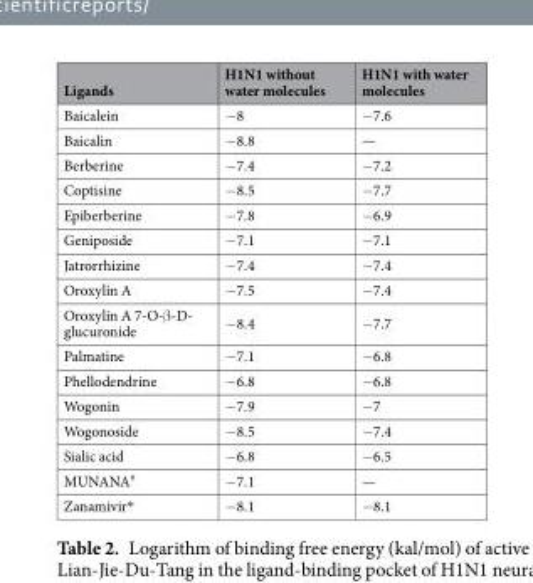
<table><thead><tr><td>Ligands</td><td>H1N1 without water molecules</td><td>H1N1 with water molecules</td></tr></thead><tbody><tr><td>Baicalein</td><td>−8</td><td>−7.6</td></tr><tr><td>Baicalin</td><td>−8.8</td><td>—</td></tr><tr><td>Berberine</td><td>−7.4</td><td>−7.2</td></tr><tr><td>Coptisine</td><td>−8.5</td><td>−7.7</td></tr><tr><td>Epiberberine</td><td>−7.8</td><td>−6.9</td></tr><tr><td>Geniposide</td><td>−7.1</td><td>−7.1</td></tr><tr><td>Jatrorrhizine</td><td>−7.4</td><td>−7.4</td></tr><tr><td>Oroxylin A</td><td>−7.5</td><td>−7.4</td></tr><tr><td>Oroxylin A 7-O-β-D- glucuronide</td><td>−8.4</td><td>−7.7</td></tr><tr><td>Palmatine</td><td>−7.1</td><td>−6.8</td></tr><tr><td>Phellodendrine</td><td>−6.8</td><td>−6.8</td></tr><tr><td>Wogonin</td><td>−7.9</td><td>−7</td></tr><tr><td>Wogonoside</td><td>−8.5</td><td>−7.4</td></tr><tr><td>Sialic acid</td><td>−6.8</td><td>−6.5</td></tr><tr><td>MUNANA<sup>#</sup></td><td>−7.1</td><td>—</td></tr><tr><td>Zanamivir*</td><td>−8.1</td><td>−8.1</td></tr></tbody></table>